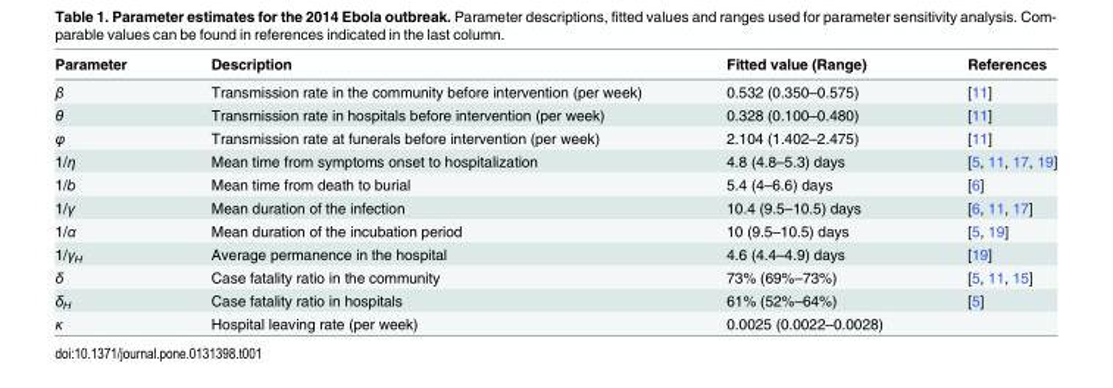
<table><thead><tr><td>Parameter</td><td>Description</td><td>Fitted value (Range)</td><td>References</td></tr></thead><tbody><tr><td>β</td><td>Transmission rate in the community before intervention (per week)</td><td>0.532 (0.350–0.575)</td><td>[11]</td></tr><tr><td>θ</td><td>Transmission rate in hospitals before intervention (per week)</td><td>0.328 (0.100–0.480)</td><td>[11]</td></tr><tr><td>φ</td><td>Transmission rate at funerals before intervention (per week)</td><td>2.104 (1.402–2.475)</td><td>[11]</td></tr><tr><td>1/η</td><td>Mean time from symptoms onset to hospitalization</td><td>4.8 (4.8–5.3) days</td><td>[5, 11, 17, 19]</td></tr><tr><td>1/b</td><td>Mean time from death to burial</td><td>5.4 (4–6.6) days</td><td>[6]</td></tr><tr><td>1/γ</td><td>Mean duration of the infection</td><td>10.4 (9.5–10.5) days</td><td>[6, 11, 17]</td></tr><tr><td>1/α</td><td>Mean duration of the incubation period</td><td>10 (9.5–10.5) days</td><td>[5, 19]</td></tr><tr><td>1/γ<sub>H</sub></td><td>Average permanence in the hospital</td><td>4.6 (4.4–4.9) days</td><td>[19]</td></tr><tr><td>δ</td><td>Case fatality ratio in the community</td><td>73% (69%–73%)</td><td>[5, 11, 15]</td></tr><tr><td>δ<sub>H</sub></td><td>Case fatality ratio in hospitals</td><td>61% (52%–64%)</td><td>[5]</td></tr><tr><td>κ</td><td>Hospital leaving rate (per week)</td><td>0.0025 (0.0022–0.0028)</td><td></td></tr></tbody></table>